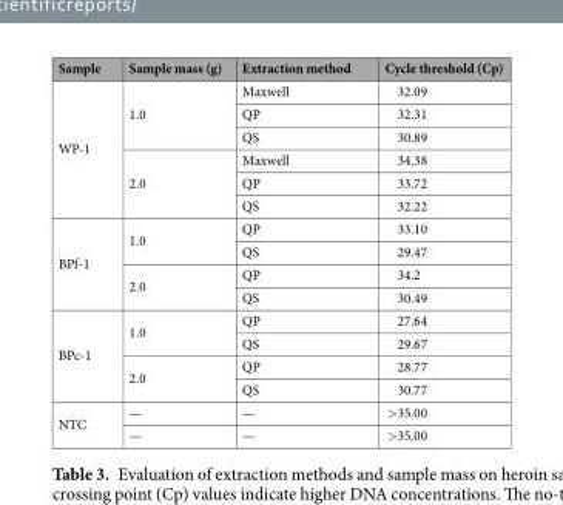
<table><thead><tr><td>Sample</td><td>Sample mass (g)</td><td>Extraction method</td><td>Cycle threshold (C<sub>p</sub>)</td></tr></thead><tbody><tr><td rowspan="6">WP-1</td><td rowspan="3">1.0</td><td>Maxwell</td><td>32.09</td></tr><tr><td>QP</td><td>32.31</td></tr><tr><td>QS</td><td>30.89</td></tr><tr><td rowspan="3">2.0</td><td>Maxwell</td><td>34.38</td></tr><tr><td>QP</td><td>33.72</td></tr><tr><td>QS</td><td>32.22</td></tr><tr><td rowspan="4">BPf-1</td><td rowspan="2">1.0</td><td>QP</td><td>33.10</td></tr><tr><td>QS</td><td>29.47</td></tr><tr><td rowspan="2">2.0</td><td>QP</td><td>34.2</td></tr><tr><td>QS</td><td>30.49</td></tr><tr><td rowspan="4">BPc-1</td><td rowspan="2">1.0</td><td>QP</td><td>27.64</td></tr><tr><td>QS</td><td>29.67</td></tr><tr><td rowspan="2">2.0</td><td>QP</td><td>28.77</td></tr><tr><td>QS</td><td>30.77</td></tr><tr><td rowspan="2">NTC</td><td>—</td><td>—</td><td>&gt;35.00</td></tr><tr><td>—</td><td>—</td><td>&gt;35.00</td></tr></tbody></table>